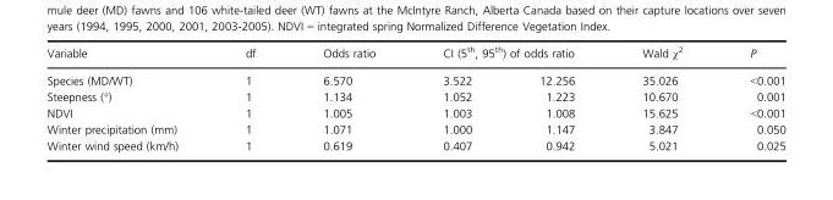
<table><thead><tr><td rowspan="2">Variable Species (MD/WT)</td><td rowspan="2">df 1</td><td rowspan="2">Odds ratio 6.570</td><td colspan="2">CI (5<sup>th</sup>, 95<sup>th</sup>) of odds ratio</td><td rowspan="2">Wald χ<sup>2</sup> 35.026</td><td rowspan="2">P &lt;0.001</td></tr><tr><td>3.522</td><td>12.256</td></tr></thead><tbody><tr><td>Steepness (°)</td><td>1</td><td>1.134</td><td>1.052</td><td>1.223</td><td>10.670</td><td>0.001</td></tr><tr><td>NDVI</td><td>1</td><td>1.005</td><td>1.003</td><td>1.008</td><td>15.625</td><td>&lt;0.001</td></tr><tr><td>Winter precipitation (mm)</td><td>1</td><td>1.071</td><td>1.000</td><td>1.147</td><td>3.847</td><td>0.050</td></tr><tr><td>Winter wind speed (km/h)</td><td>1</td><td>0.619</td><td>0.407</td><td>0.942</td><td>5.021</td><td>0.025</td></tr></tbody></table>